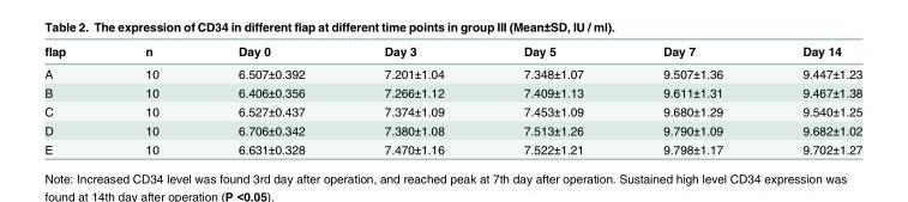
<table><thead><tr><td>flap</td><td>n</td><td>Day 0</td><td>Day 3</td><td>Day 5</td><td>Day 7</td><td>Day 14</td></tr></thead><tbody><tr><td>A</td><td>10</td><td>6.507±0.392</td><td>7.201±1.04</td><td>7.348±1.07</td><td>9.507±1.36</td><td>9.447±1.23</td></tr><tr><td>B</td><td>10</td><td>6.406±0.356</td><td>7.266±1.12</td><td>7.409±1.13</td><td>9.611±1.31</td><td>9.467±1.38</td></tr><tr><td>C</td><td>10</td><td>6.527±0.437</td><td>7.374±1.09</td><td>7.453±1.09</td><td>9.680±1.29</td><td>9.540±1.25</td></tr><tr><td>D</td><td>10</td><td>6.706±0.342</td><td>7.380±1.08</td><td>7.513±1.26</td><td>9.790±1.09</td><td>9.682±1.02</td></tr><tr><td>E</td><td>10</td><td>6.631±0.328</td><td>7.470±1.16</td><td>7.522±1.21</td><td>9.798±1.17</td><td>9.702±1.27</td></tr></tbody></table>